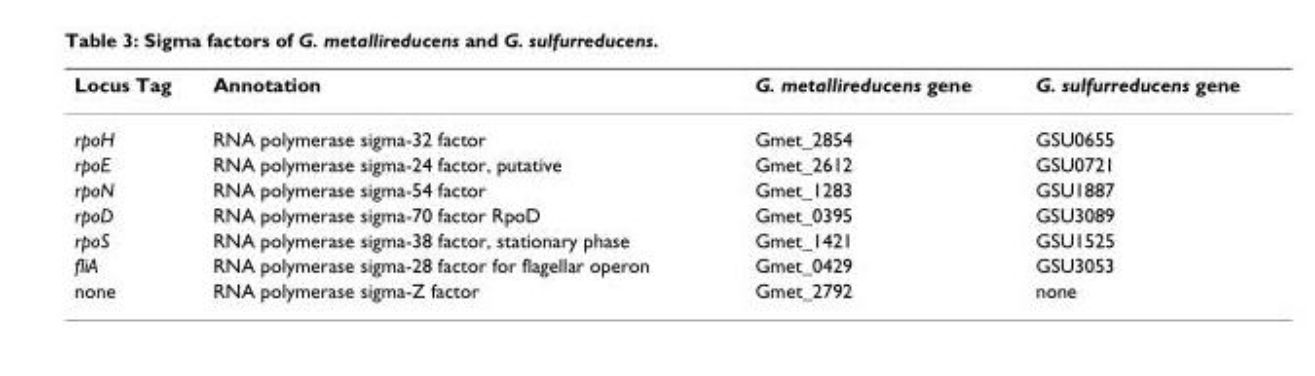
<table><thead><tr><td>Locus Tag</td><td>Annotation</td><td>G. metallireducens gene</td><td>G. sulfurreducens gene</td></tr></thead><tbody><tr><td>rpoH</td><td>RNA polymerase sigma-32 factor</td><td>Gmet_2854</td><td>GSU0655</td></tr><tr><td>rpoE</td><td>RNA polymerase sigma-24 factor, putative</td><td>Gmet_2612</td><td>GSU0721</td></tr><tr><td>rpoN</td><td>RNA polymerase sigma-54 factor</td><td>Gmet_1283</td><td>GSU1887</td></tr><tr><td>rpoD</td><td>RNA polymerase sigma-70 factor RpoD</td><td>Gmet_0395</td><td>GSU3089</td></tr><tr><td>rpoS</td><td>RNA polymerase sigma-38 factor, stationary phase</td><td>Gmet_1421</td><td>GSU1525</td></tr><tr><td>fliA</td><td>RNA polymerase sigma-28 factor for flagellar operon</td><td>Gmet_0429</td><td>GSU3053</td></tr><tr><td>none</td><td>RNA polymerase sigma-Z factor</td><td>Gmet_2792</td><td>none</td></tr></tbody></table>